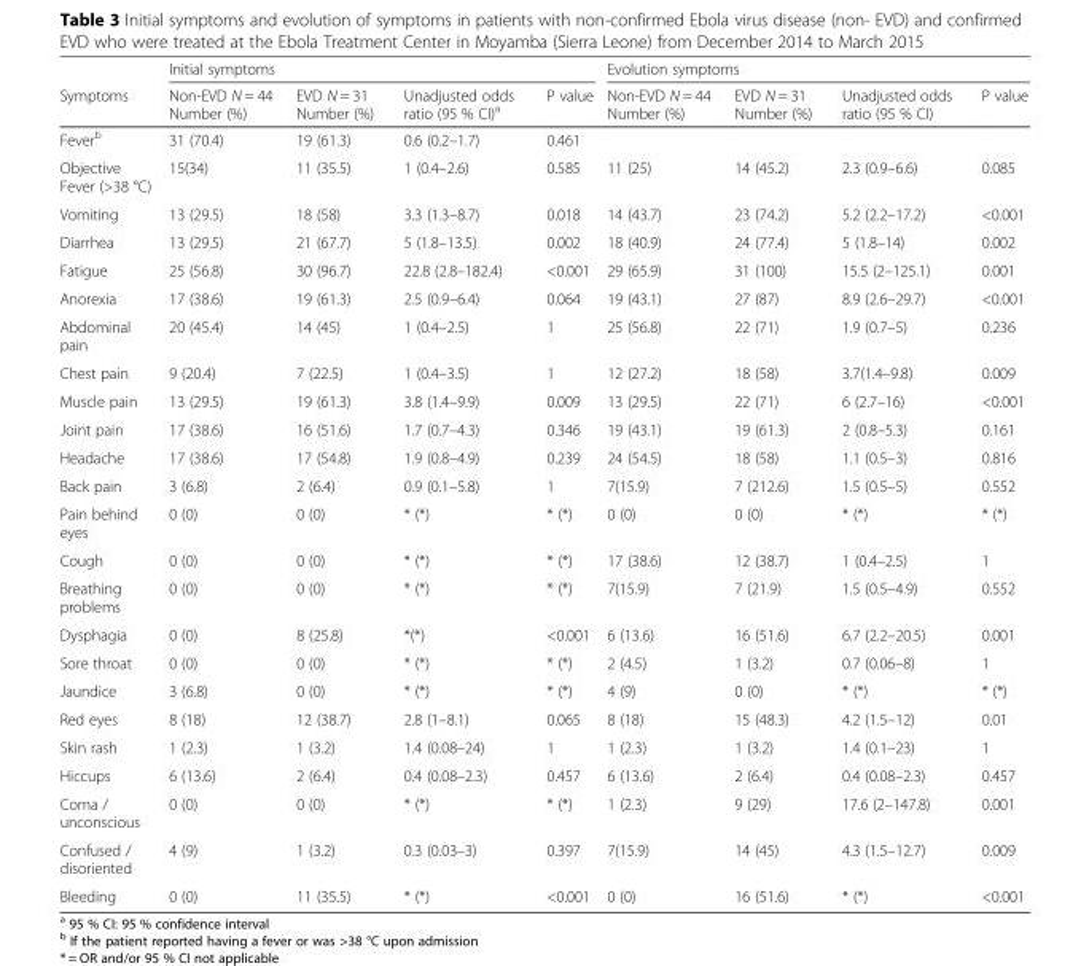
<table><thead><tr><td rowspan="2">Symptoms</td><td colspan="4">Initial symptoms</td><td colspan="4">Evolution symptoms</td></tr><tr><td>Non-EVD N = 44 Number (%)</td><td>EVD N = 31 Number (%)</td><td>Unadjusted odds ratio (95 % CI)<sup>a</sup></td><td>P value</td><td>Non-EVD N = 44 Number (%)</td><td>EVD N = 31 Number (%)</td><td>Unadjusted odds ratio (95 % CI)</td><td>P value</td></tr></thead><tbody><tr><td>Fever<sup>b</sup></td><td>31 (70.4)</td><td>19 (61.3)</td><td>0.6 (0.2–1.7)</td><td>0.461</td><td></td><td></td><td></td><td></td></tr><tr><td>Objective Fever (&gt;38 °C)</td><td>15(34)</td><td>11 (35.5)</td><td>1 (0.4–2.6)</td><td>0.585</td><td>11 (25)</td><td>14 (45.2)</td><td>2.3 (0.9–6.6)</td><td>0.085</td></tr><tr><td>Vomiting</td><td>13 (29.5)</td><td>18 (58)</td><td>3.3 (1.3–8.7)</td><td>0.018</td><td>14 (43.7)</td><td>23 (74.2)</td><td>5.2 (2.2–17.2)</td><td>&lt;0.001</td></tr><tr><td>Diarrhea</td><td>13 (29.5)</td><td>21 (67.7)</td><td>5 (1.8–13.5)</td><td>0.002</td><td>18 (40.9)</td><td>24 (77.4)</td><td>5 (1.8–14)</td><td>0.002</td></tr><tr><td>Fatigue</td><td>25 (56.8)</td><td>30 (96.7)</td><td>22.8 (2.8–182.4)</td><td>&lt;0.001</td><td>29 (65.9)</td><td>31 (100)</td><td>15.5 (2–125.1)</td><td>0.001</td></tr><tr><td>Anorexia</td><td>17 (38.6)</td><td>19 (61.3)</td><td>2.5 (0.9–6.4)</td><td>0.064</td><td>19 (43.1)</td><td>27 (87)</td><td>8.9 (2.6–29.7)</td><td>&lt;0.001</td></tr><tr><td>Abdominal pain</td><td>20 (45.4)</td><td>14 (45)</td><td>1 (0.4–2.5)</td><td>1</td><td>25 (56.8)</td><td>22 (71)</td><td>1.9 (0.7–5)</td><td>0.236</td></tr><tr><td>Chest pain</td><td>9 (20.4)</td><td>7 (22.5)</td><td>1 (0.4–3.5)</td><td>1</td><td>12 (27.2)</td><td>18 (58)</td><td>3.7(1.4–9.8)</td><td>0.009</td></tr><tr><td>Muscle pain</td><td>13 (29.5)</td><td>19 (61.3)</td><td>3.8 (1.4–9.9)</td><td>0.009</td><td>13 (29.5)</td><td>22 (71)</td><td>6 (2.7–16)</td><td>&lt;0.001</td></tr><tr><td>Joint pain</td><td>17 (38.6)</td><td>16 (51.6)</td><td>1.7 (0.7–4.3)</td><td>0.346</td><td>19 (43.1)</td><td>19 (61.3)</td><td>2 (0.8–5.3)</td><td>0.161</td></tr><tr><td>Headache</td><td>17 (38.6)</td><td>17 (54.8)</td><td>1.9 (0.8–4.9)</td><td>0.239</td><td>24 (54.5)</td><td>18 (58)</td><td>1.1 (0.5–3)</td><td>0.816</td></tr><tr><td>Back pain</td><td>3 (6.8)</td><td>2 (6.4)</td><td>0.9 (0.1–5.8)</td><td>1</td><td>7(15.9)</td><td>7 (212.6)</td><td>1.5 (0.5–5)</td><td>0.552</td></tr><tr><td>Pain behind eyes</td><td>0 (0)</td><td>0 (0)</td><td>* (*)</td><td>* (*)</td><td>0 (0)</td><td>0 (0)</td><td>* (*)</td><td>* (*)</td></tr><tr><td>Cough</td><td>0 (0)</td><td>0 (0)</td><td>* (*)</td><td>* (*)</td><td>17 (38.6)</td><td>12 (38.7)</td><td>1 (0.4–2.5)</td><td>1</td></tr><tr><td>Breathing problems</td><td>0 (0)</td><td>0 (0)</td><td>* (*)</td><td>* (*)</td><td>7(15.9)</td><td>7 (21.9)</td><td>1.5 (0.5–4.9)</td><td>0.552</td></tr><tr><td>Dysphagia</td><td>0 (0)</td><td>8 (25.8)</td><td>*(*)</td><td>&lt;0.001</td><td>6 (13.6)</td><td>16 (51.6)</td><td>6.7 (2.2–20.5)</td><td>0.001</td></tr><tr><td>Sore throat</td><td>0 (0)</td><td>0 (0)</td><td>* (*)</td><td>* (*)</td><td>2 (4.5)</td><td>1 (3.2)</td><td>0.7 (0.06–8)</td><td>1</td></tr><tr><td>Jaundice</td><td>3 (6.8)</td><td>0 (0)</td><td>* (*)</td><td>* (*)</td><td>4 (9)</td><td>0 (0)</td><td>* (*)</td><td>* (*)</td></tr><tr><td>Red eyes</td><td>8 (18)</td><td>12 (38.7)</td><td>2.8 (1–8.1)</td><td>0.065</td><td>8 (18)</td><td>15 (48.3)</td><td>4.2 (1.5–12)</td><td>0.01</td></tr><tr><td>Skin rash</td><td>1 (2.3)</td><td>1 (3.2)</td><td>1.4 (0.08–24)</td><td>1</td><td>1 (2.3)</td><td>1 (3.2)</td><td>1.4 (0.1–23)</td><td>1</td></tr><tr><td>Hiccups</td><td>6 (13.6)</td><td>2 (6.4)</td><td>0.4 (0.08–2.3)</td><td>0.457</td><td>6 (13.6)</td><td>2 (6.4)</td><td>0.4 (0.08–2.3)</td><td>0.457</td></tr><tr><td>Coma / unconscious</td><td>0 (0)</td><td>0 (0)</td><td>* (*)</td><td>* (*)</td><td>1 (2.3)</td><td>9 (29)</td><td>17.6 (2–147.8)</td><td>0.001</td></tr><tr><td>Confused / disoriented</td><td>4 (9)</td><td>1 (3.2)</td><td>0.3 (0.03–3)</td><td>0.397</td><td>7(15.9)</td><td>14 (45)</td><td>4.3 (1.5–12.7)</td><td>0.009</td></tr><tr><td>Bleeding</td><td>0 (0)</td><td>11 (35.5)</td><td>* (*)</td><td>&lt;0.001</td><td>0 (0)</td><td>16 (51.6)</td><td>* (*)</td><td>&lt;0.001</td></tr></tbody></table>